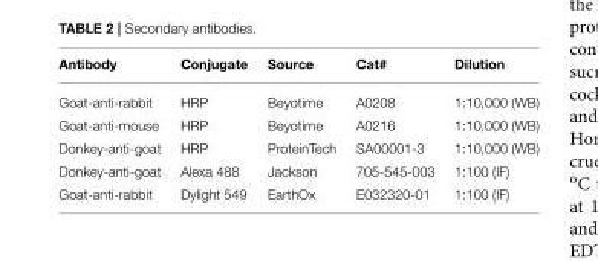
<table><thead><tr><td>Antibody</td><td>Conjugate</td><td>Source</td><td>Cat#</td><td>Dilution</td></tr></thead><tbody><tr><td>Goat-anti-rabbit</td><td>HRP</td><td>Beyotime</td><td>A0208</td><td>1:10,000 (WB)</td></tr><tr><td>Goat-anti-mouse</td><td>HRP</td><td>Beyotime</td><td>A0216</td><td>1:10,000 (WB)</td></tr><tr><td>Donkey-anti-goat</td><td>HRP</td><td>ProteinTech</td><td>SA00001-3</td><td>1:10,000 (WB)</td></tr><tr><td>Donkey-anti-goat</td><td>Alexa 488</td><td>Jackson</td><td>705-545-003</td><td>1:100 (IF)</td></tr><tr><td>Goat-anti-rabbit</td><td>Dylight 549</td><td>EarthOx</td><td>E032320-01</td><td>1:100 (IF)</td></tr></tbody></table>